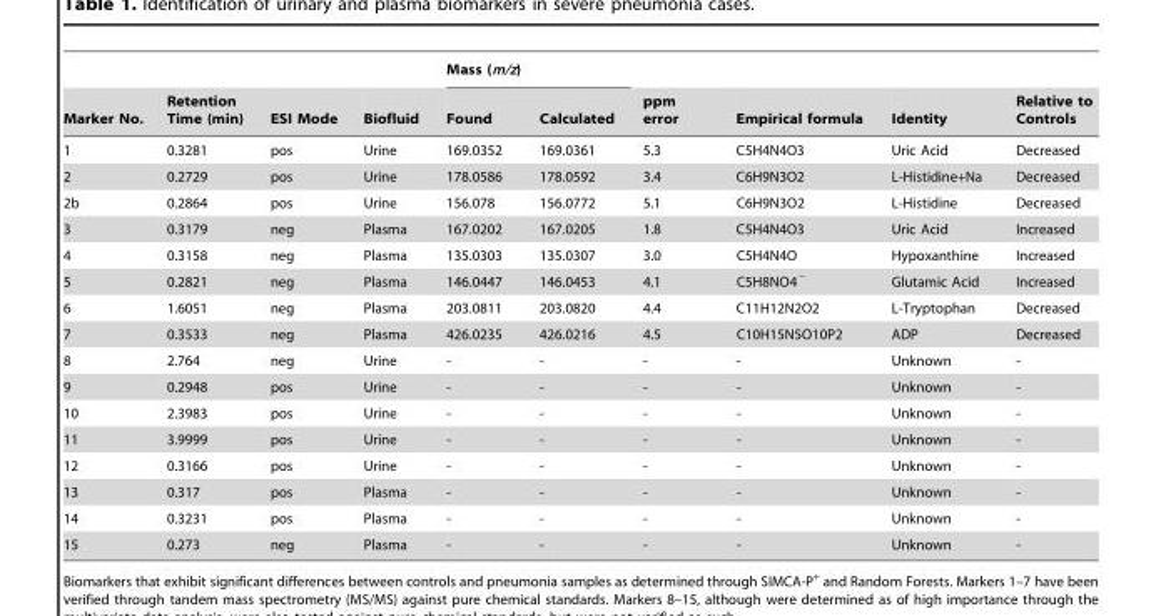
<table><thead><tr><td rowspan="2">Marker No.</td><td rowspan="2">Retention Time (min)</td><td rowspan="2">ESI Mode</td><td rowspan="2">Biofluid</td><td colspan="2">Mass (m/z)</td><td rowspan="2">ppm error</td><td rowspan="2">Empirical formula</td><td rowspan="2">Identity</td><td rowspan="2">Relative to Controls</td></tr><tr><td>Found</td><td>Calculated</td></tr></thead><tbody><tr><td>1</td><td>0.3281</td><td>pos</td><td>Urine</td><td>169.0352</td><td>169.0361</td><td>5.3</td><td>C5H4N4O3</td><td>Uric Acid</td><td>Decreased</td></tr><tr><td>2</td><td>0.2729</td><td>pos</td><td>Urine</td><td>178.0586</td><td>178.0592</td><td>3.4</td><td>C6H9N3O2</td><td>L-Histidine+Na</td><td>Decreased</td></tr><tr><td>2b</td><td>0.2864</td><td>pos</td><td>Urine</td><td>156.078</td><td>156.0772</td><td>5.1</td><td>C6H9N3O2</td><td>L-Histidine</td><td>Decreased</td></tr><tr><td>3</td><td>0.3179</td><td>neg</td><td>Plasma</td><td>167.0202</td><td>167.0205</td><td>1.8</td><td>C5H4N4O3</td><td>Uric Acid</td><td>Increased</td></tr><tr><td>4</td><td>0.3158</td><td>neg</td><td>Plasma</td><td>135.0303</td><td>135.0307</td><td>3.0</td><td>C5H4N4O</td><td>Hypoxanthine</td><td>Increased</td></tr><tr><td>5</td><td>0.2821</td><td>neg</td><td>Plasma</td><td>146.0447</td><td>146.0453</td><td>4.1</td><td>C5H8NO4<sup>−</sup></td><td>Glutamic Acid</td><td>Increased</td></tr><tr><td>6</td><td>1.6051</td><td>neg</td><td>Plasma</td><td>203.0811</td><td>203.0820</td><td>4.4</td><td>C11H12N2O2</td><td>L-Tryptophan</td><td>Decreased</td></tr><tr><td>7</td><td>0.3533</td><td>neg</td><td>Plasma</td><td>426.0235</td><td>426.0216</td><td>4.5</td><td>C10H15N5O10P2</td><td>ADP</td><td>Decreased</td></tr><tr><td>8</td><td>2.764</td><td>neg</td><td>Urine</td><td>-</td><td>-</td><td>-</td><td>-</td><td>Unknown</td><td>-</td></tr><tr><td>9</td><td>0.2948</td><td>pos</td><td>Urine</td><td>-</td><td>-</td><td>-</td><td>-</td><td>Unknown</td><td>-</td></tr><tr><td>10</td><td>2.3983</td><td>pos</td><td>Urine</td><td>-</td><td>-</td><td>-</td><td>-</td><td>Unknown</td><td>-</td></tr><tr><td>11</td><td>3.9999</td><td>pos</td><td>Urine</td><td>-</td><td>-</td><td>-</td><td>-</td><td>Unknown</td><td>-</td></tr><tr><td>12</td><td>0.3166</td><td>pos</td><td>Urine</td><td>-</td><td>-</td><td>-</td><td>-</td><td>Unknown</td><td>-</td></tr><tr><td>13</td><td>0.317</td><td>pos</td><td>Plasma</td><td>-</td><td>-</td><td>-</td><td>-</td><td>Unknown</td><td>-</td></tr><tr><td>14</td><td>0.3231</td><td>pos</td><td>Plasma</td><td>-</td><td>-</td><td>-</td><td>-</td><td>Unknown</td><td>-</td></tr><tr><td>15</td><td>0.273</td><td>neg</td><td>Plasma</td><td>-</td><td>-</td><td>-</td><td>-</td><td>Unknown</td><td>-</td></tr></tbody></table>